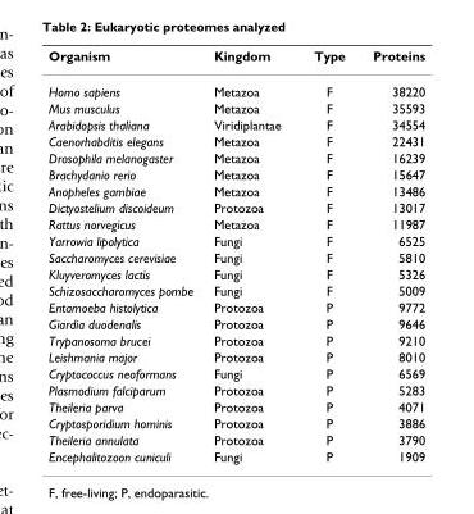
<table><thead><tr><td>Organism</td><td>Kingdom</td><td>Type</td><td>Proteins</td></tr></thead><tbody><tr><td>Homo sapiens</td><td>Metazoa</td><td>F</td><td>38220</td></tr><tr><td>Mus musculus</td><td>Metazoa</td><td>F</td><td>35593</td></tr><tr><td>Arabidopsis thaliana</td><td>Viridiplantae</td><td>F</td><td>34554</td></tr><tr><td>Caenorhabditis elegans</td><td>Metazoa</td><td>F</td><td>22431</td></tr><tr><td>Drosophila melanogaster</td><td>Metazoa</td><td>F</td><td>16239</td></tr><tr><td>Brachydanio rerio</td><td>Metazoa</td><td>F</td><td>15647</td></tr><tr><td>Anopheles gambiae</td><td>Metazoa</td><td>F</td><td>13486</td></tr><tr><td>Dictyostelium discoideum</td><td>Protozoa</td><td>F</td><td>13017</td></tr><tr><td>Rattus norvegicus</td><td>Metazoa</td><td>F</td><td>11987</td></tr><tr><td>Yarrowia lipolytica</td><td>Fungi</td><td>F</td><td>6525</td></tr><tr><td>Saccharomyces cerevisiae</td><td>Fungi</td><td>F</td><td>5810</td></tr><tr><td>Kluyveromyces lactis</td><td>Fungi</td><td>F</td><td>5326</td></tr><tr><td>Schizosaccharomyces pombe</td><td>Fungi</td><td>F</td><td>5009</td></tr><tr><td>Entamoeba histolytica</td><td>Protozoa</td><td>P</td><td>9772</td></tr><tr><td>Giardia duodenalis</td><td>Protozoa</td><td>P</td><td>9646</td></tr><tr><td>Trypanosoma brucei</td><td>Protozoa</td><td>P</td><td>9210</td></tr><tr><td>Leishmania major</td><td>Protozoa</td><td>P</td><td>8010</td></tr><tr><td>Cryptococcus neoformans</td><td>Fungi</td><td>P</td><td>6569</td></tr><tr><td>Plasmodium falciparum</td><td>Protozoa</td><td>P</td><td>5283</td></tr><tr><td>Theileria parva</td><td>Protozoa</td><td>P</td><td>4071</td></tr><tr><td>Cryptosporidium hominis</td><td>Protozoa</td><td>P</td><td>3886</td></tr><tr><td>Theileria annulata</td><td>Protozoa</td><td>P</td><td>3790</td></tr><tr><td>Encephalitozoon cuniculi</td><td>Fungi</td><td>P</td><td>1909</td></tr></tbody></table>